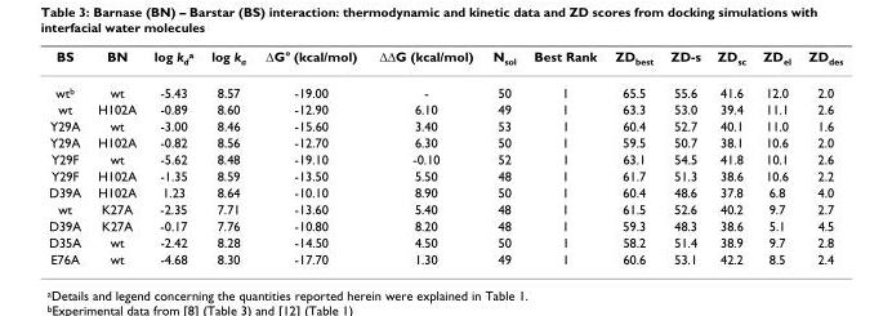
<table><thead><tr><td>BS</td><td>BN</td><td>log k<sub>d</sub><sup>a</sup></td><td>log k<sub>a</sub></td><td>∆G° (kcal/mol)</td><td>∆∆G (kcal/mol)</td><td>N<sub>sol</sub></td><td>Best Rank</td><td>ZD<sub>best</sub></td><td>ZD-s</td><td>ZD<sub>sc</sub></td><td>ZD<sub>el</sub></td><td>ZD<sub>des</sub></td></tr></thead><tbody><tr><td>wt<sup>b</sup></td><td>wt</td><td>-5.43</td><td>8.57</td><td>-19.00</td><td>-</td><td>50</td><td>1</td><td>65.5</td><td>55.6</td><td>41.6</td><td>12.0</td><td>2.0</td></tr><tr><td>wt</td><td>H102A</td><td>-0.89</td><td>8.60</td><td>-12.90</td><td>6.10</td><td>49</td><td>1</td><td>63.3</td><td>53.0</td><td>39.4</td><td>11.1</td><td>2.6</td></tr><tr><td>Y29A</td><td>wt</td><td>-3.00</td><td>8.46</td><td>-15.60</td><td>3.40</td><td>53</td><td>1</td><td>60.4</td><td>52.7</td><td>40.1</td><td>11.0</td><td>1.6</td></tr><tr><td>Y29A</td><td>H102A</td><td>-0.82</td><td>8.56</td><td>-12.70</td><td>6.30</td><td>50</td><td>1</td><td>59.5</td><td>50.7</td><td>38.1</td><td>10.6</td><td>2.0</td></tr><tr><td>Y29F</td><td>wt</td><td>-5.62</td><td>8.48</td><td>-19.10</td><td>-0.10</td><td>52</td><td>1</td><td>63.1</td><td>54.5</td><td>41.8</td><td>10.1</td><td>2.6</td></tr><tr><td>Y29F</td><td>H102A</td><td>-1.35</td><td>8.59</td><td>-13.50</td><td>5.50</td><td>48</td><td>1</td><td>61.7</td><td>51.3</td><td>38.6</td><td>10.6</td><td>2.2</td></tr><tr><td>D39A</td><td>H102A</td><td>1.23</td><td>8.64</td><td>-10.10</td><td>8.90</td><td>50</td><td>1</td><td>60.4</td><td>48.6</td><td>37.8</td><td>6.8</td><td>4.0</td></tr><tr><td>wt</td><td>K27A</td><td>-2.35</td><td>7.71</td><td>-13.60</td><td>5.40</td><td>48</td><td>1</td><td>61.5</td><td>52.6</td><td>40.2</td><td>9.7</td><td>2.7</td></tr><tr><td>D39A</td><td>K27A</td><td>-0.17</td><td>7.76</td><td>-10.80</td><td>8.20</td><td>48</td><td>1</td><td>59.3</td><td>48.3</td><td>38.6</td><td>5.1</td><td>4.5</td></tr><tr><td>D35A</td><td>wt</td><td>-2.42</td><td>8.28</td><td>-14.50</td><td>4.50</td><td>50</td><td>1</td><td>58.2</td><td>51.4</td><td>38.9</td><td>9.7</td><td>2.8</td></tr><tr><td>E76A</td><td>wt</td><td>-4.68</td><td>8.30</td><td>-17.70</td><td>1.30</td><td>49</td><td>1</td><td>60.6</td><td>53.1</td><td>42.2</td><td>8.5</td><td>2.4</td></tr></tbody></table>